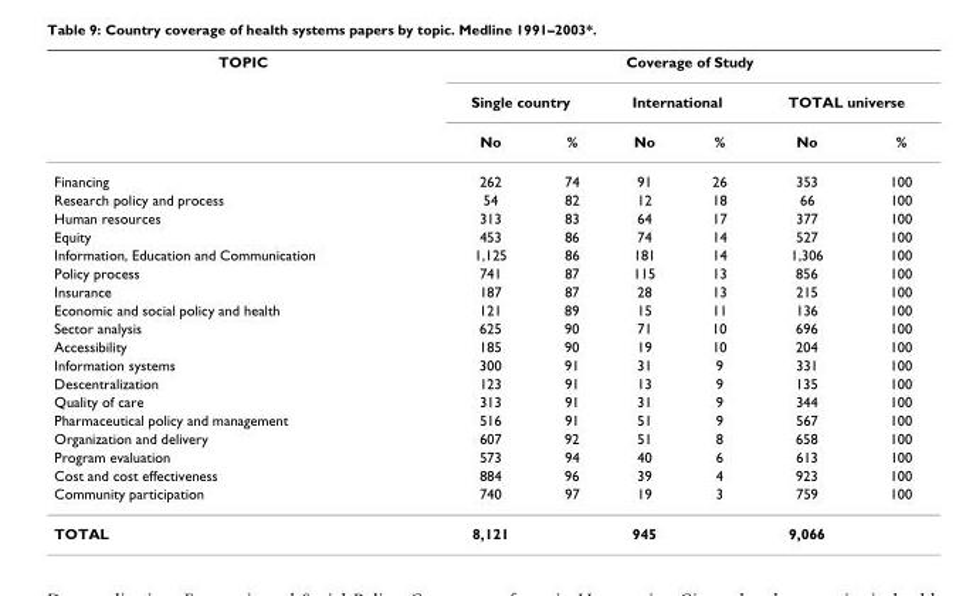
<table><thead><tr><td rowspan="3">TOPIC</td><td colspan="6">Coverage of Study</td></tr><tr><td colspan="2">Single country</td><td colspan="2">International</td><td colspan="2">TOTAL universe</td></tr><tr><td>No</td><td>%</td><td>No</td><td>%</td><td>No</td><td>%</td></tr></thead><tbody><tr><td>Financing</td><td>262</td><td>74</td><td>91</td><td>26</td><td>353</td><td>100</td></tr><tr><td>Research policy and process</td><td>54</td><td>82</td><td>12</td><td>18</td><td>66</td><td>100</td></tr><tr><td>Human resources</td><td>313</td><td>83</td><td>64</td><td>17</td><td>377</td><td>100</td></tr><tr><td>Equity</td><td>453</td><td>86</td><td>74</td><td>14</td><td>527</td><td>100</td></tr><tr><td>Information, Education and Communication</td><td>1,125</td><td>86</td><td>181</td><td>14</td><td>1,306</td><td>100</td></tr><tr><td>Policy process</td><td>741</td><td>87</td><td>115</td><td>13</td><td>856</td><td>100</td></tr><tr><td>Insurance</td><td>187</td><td>87</td><td>28</td><td>13</td><td>215</td><td>100</td></tr><tr><td>Economic and social policy and health</td><td>121</td><td>89</td><td>15</td><td>11</td><td>136</td><td>100</td></tr><tr><td>Sector analysis</td><td>625</td><td>90</td><td>71</td><td>10</td><td>696</td><td>100</td></tr><tr><td>Accessibility</td><td>185</td><td>90</td><td>19</td><td>10</td><td>204</td><td>100</td></tr><tr><td>Information systems</td><td>300</td><td>91</td><td>31</td><td>9</td><td>331</td><td>100</td></tr><tr><td>Descentralization</td><td>123</td><td>91</td><td>13</td><td>9</td><td>135</td><td>100</td></tr><tr><td>Quality of care</td><td>313</td><td>91</td><td>31</td><td>9</td><td>344</td><td>100</td></tr><tr><td>Pharmaceutical policy and management</td><td>516</td><td>91</td><td>51</td><td>9</td><td>567</td><td>100</td></tr><tr><td>Organization and delivery</td><td>607</td><td>92</td><td>51</td><td>8</td><td>658</td><td>100</td></tr><tr><td>Program evaluation</td><td>573</td><td>94</td><td>40</td><td>6</td><td>613</td><td>100</td></tr><tr><td>Cost and cost effectiveness</td><td>884</td><td>96</td><td>39</td><td>4</td><td>923</td><td>100</td></tr><tr><td>Community participation</td><td>740</td><td>97</td><td>19</td><td>3</td><td>759</td><td>100</td></tr><tr><td>TOTAL</td><td>8,121</td><td></td><td>945</td><td></td><td>9,066</td><td></td></tr></tbody></table>